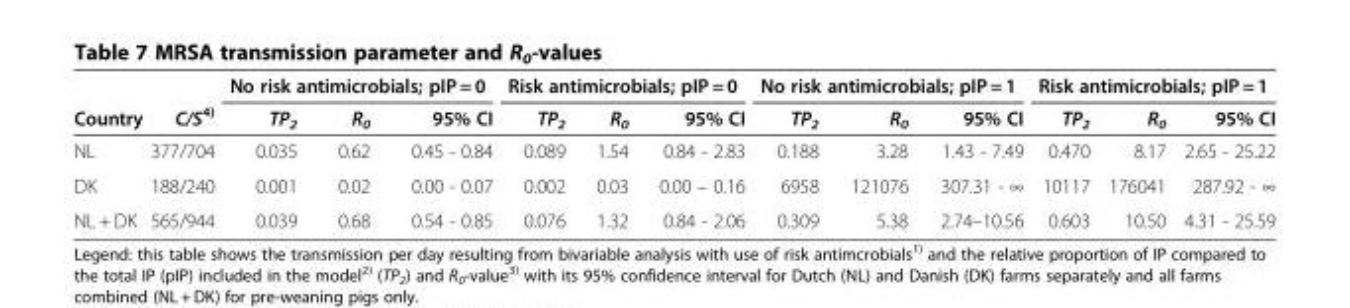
<table><thead><tr><td rowspan="2">Country</td><td rowspan="2">C/S<sup>4)</sup></td><td colspan="3">No risk antimicrobials; pIP = 0</td><td colspan="3">Risk antimicrobials; pIP = 0</td><td colspan="3">No risk antimicrobials; pIP = 1</td><td colspan="3">Risk antimicrobials; pIP = 1</td></tr><tr><td>TP<sub>2</sub></td><td>R<sub>0</sub></td><td>95% CI</td><td>TP<sub>2</sub></td><td>R<sub>0</sub></td><td>95% CI</td><td>TP<sub>2</sub></td><td>R<sub>0</sub></td><td>95% CI</td><td>TP<sub>2</sub></td><td>R<sub>0</sub></td><td>95% CI</td></tr></thead><tbody><tr><td>NL</td><td>377/704</td><td>0.035</td><td>0.62</td><td>0.45 - 0.84</td><td>0.089</td><td>1.54</td><td>0.84 - 2.83</td><td>0.188</td><td>3.28</td><td>1.43 - 7.49</td><td>0.470</td><td>8.17</td><td>2.65 - 25.22</td></tr><tr><td>DK</td><td>188/240</td><td>0.001</td><td>0.02</td><td>0.00 - 0.07</td><td>0.002</td><td>0.03</td><td>0.00 – 0.16</td><td>6958</td><td>121076</td><td>307.31 - ∞</td><td>10117</td><td>176041</td><td>287.92 - ∞</td></tr><tr><td>NL + DK</td><td>565/944</td><td>0.039</td><td>0.68</td><td>0.54 - 0.85</td><td>0.076</td><td>1.32</td><td>0.84 - 2.06</td><td>0.309</td><td>5.38</td><td>2.74–10.56</td><td>0.603</td><td>10.50</td><td>4.31 - 25.59</td></tr></tbody></table>